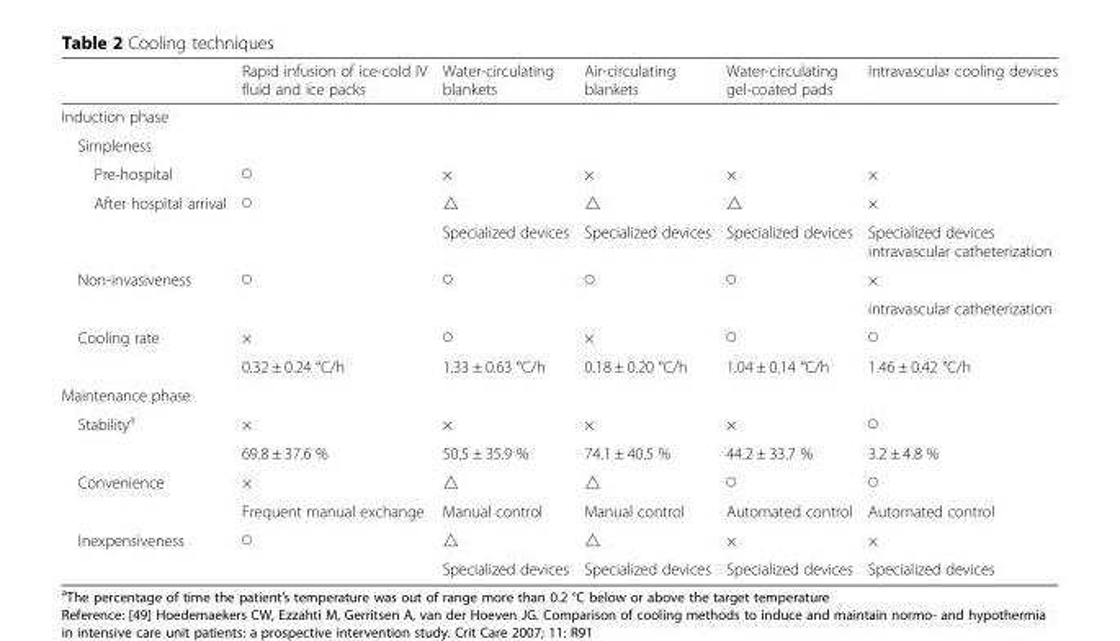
<table><thead><tr><td></td><td>Rapid infusion of ice-cold IV fluid and ice packs</td><td>Water-circulating blankets</td><td>Air-circulating blankets</td><td>Water-circulating gel-coated pads</td><td>Intravascular cooling devices</td></tr></thead><tbody><tr><td colspan="6">Induction phase</td></tr><tr><td colspan="6">Simpleness</td></tr><tr><td>Pre-hospital</td><td>◯</td><td>×</td><td>×</td><td>×</td><td>×</td></tr><tr><td rowspan="2">After hospital arrival</td><td rowspan="2">◯</td><td>△</td><td>△</td><td>△</td><td>×</td></tr><tr><td>Specialized devices</td><td>Specialized devices</td><td>Specialized devices</td><td>Specialized devices intravascular catheterization</td></tr><tr><td rowspan="2">Non-invasiveness</td><td rowspan="2">◯</td><td rowspan="2">◯</td><td rowspan="2">◯</td><td rowspan="2">◯</td><td>×</td></tr><tr><td>intravascular catheterization</td></tr><tr><td rowspan="2">Cooling rate</td><td>×</td><td>◯</td><td>×</td><td>◯</td><td>◯</td></tr><tr><td>0.32 ± 0.24 °C/h</td><td>1.33 ± 0.63 °C/h</td><td>0.18 ± 0.20 °C/h</td><td>1.04 ± 0.14 °C/h</td><td>1.46 ± 0.42 °C/h</td></tr><tr><td colspan="6">Maintenance phase</td></tr><tr><td rowspan="2">Stability<sup>a</sup></td><td>×</td><td>×</td><td>×</td><td>×</td><td>◯</td></tr><tr><td>69.8 ± 37.6 %</td><td>50.5 ± 35.9 %</td><td>74.1 ± 40.5 %</td><td>44.2 ± 33.7 %</td><td>3.2 ± 4.8 %</td></tr><tr><td rowspan="2">Convenience</td><td>×</td><td>△</td><td>△</td><td>◯</td><td>◯</td></tr><tr><td>Frequent manual exchange</td><td>Manual control</td><td>Manual control</td><td>Automated control</td><td>Automated control</td></tr><tr><td rowspan="2">Inexpensiveness</td><td rowspan="2">◯</td><td>△</td><td>△</td><td>×</td><td>×</td></tr><tr><td>Specialized devices</td><td>Specialized devices</td><td>Specialized devices</td><td>Specialized devices</td></tr></tbody></table>